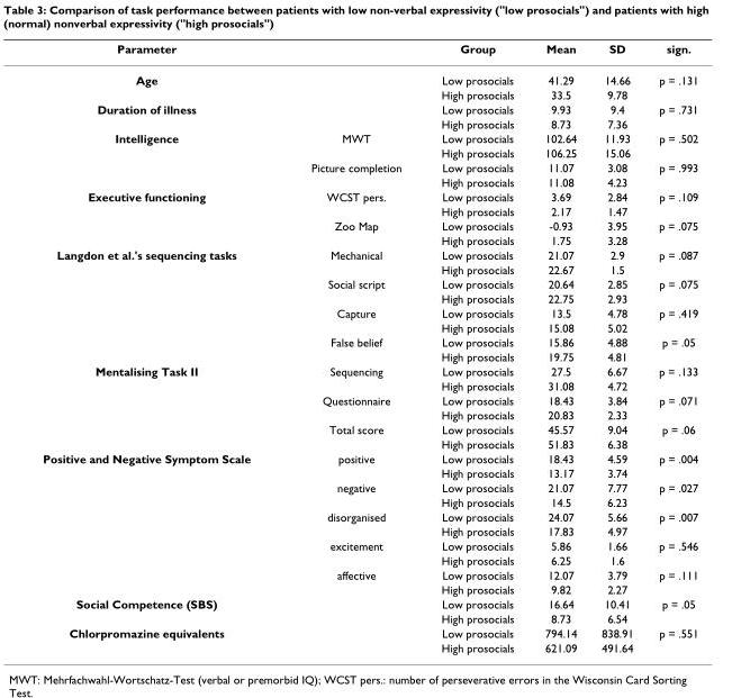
<table><thead><tr><td>Parameter</td><td></td><td>Group</td><td>Mean</td><td>SD</td><td>sign.</td></tr></thead><tbody><tr><td rowspan="2">Age</td><td></td><td>Low prosocials</td><td>41.29</td><td>14.66</td><td>p = .131</td></tr><tr><td></td><td>High prosocials</td><td>33.5</td><td>9.78</td><td></td></tr><tr><td rowspan="2">Duration of illness</td><td></td><td>Low prosocials</td><td>9.93</td><td>9.4</td><td>p = .731</td></tr><tr><td></td><td>High prosocials</td><td>8.73</td><td>7.36</td><td></td></tr><tr><td rowspan="4">Intelligence</td><td>MWT</td><td>Low prosocials</td><td>102.64</td><td>11.93</td><td>p = .502</td></tr><tr><td></td><td>High prosocials</td><td>106.25</td><td>15.06</td><td></td></tr><tr><td>Picture completion</td><td>Low prosocials</td><td>11.07</td><td>3.08</td><td>p = .993</td></tr><tr><td></td><td>High prosocials</td><td>11.08</td><td>4.23</td><td></td></tr><tr><td rowspan="4">Executive functioning</td><td>WCST pers.</td><td>Low prosocials</td><td>3.69</td><td>2.84</td><td>p = .109</td></tr><tr><td></td><td>High prosocials</td><td>2.17</td><td>1.47</td><td></td></tr><tr><td>Zoo Map</td><td>Low prosocials</td><td>-0.93</td><td>3.95</td><td>p = .075</td></tr><tr><td></td><td>High prosocials</td><td>1.75</td><td>3.28</td><td></td></tr><tr><td rowspan="8">Langdon et al.&#x27;s sequencing tasks</td><td>Mechanical</td><td>Low prosocials</td><td>21.07</td><td>2.9</td><td>p = .087</td></tr><tr><td></td><td>High prosocials</td><td>22.67</td><td>1.5</td><td></td></tr><tr><td>Social script</td><td>Low prosocials</td><td>20.64</td><td>2.85</td><td>p = .075</td></tr><tr><td></td><td>High prosocials</td><td>22.75</td><td>2.93</td><td></td></tr><tr><td>Capture</td><td>Low prosocials</td><td>13.5</td><td>4.78</td><td>p = .419</td></tr><tr><td></td><td>High prosocials</td><td>15.08</td><td>5.02</td><td></td></tr><tr><td>False belief</td><td>Low prosocials</td><td>15.86</td><td>4.88</td><td>p = .05</td></tr><tr><td></td><td>High prosocials</td><td>19.75</td><td>4.81</td><td></td></tr><tr><td rowspan="6">Mentalising Task II</td><td>Sequencing</td><td>Low prosocials</td><td>27.5</td><td>6.67</td><td>p = .133</td></tr><tr><td></td><td>High prosocials</td><td>31.08</td><td>4.72</td><td></td></tr><tr><td>Questionnaire</td><td>Low prosocials</td><td>18.43</td><td>3.84</td><td>p = .071</td></tr><tr><td></td><td>High prosocials</td><td>20.83</td><td>2.33</td><td></td></tr><tr><td>Total score</td><td>Low prosocials</td><td>45.57</td><td>9.04</td><td>p = .06</td></tr><tr><td></td><td>High prosocials</td><td>51.83</td><td>6.38</td><td></td></tr><tr><td rowspan="10">Positive and Negative Symptom Scale</td><td>positive</td><td>Low prosocials</td><td>18.43</td><td>4.59</td><td>p = .004</td></tr><tr><td></td><td>High prosocials</td><td>13.17</td><td>3.74</td><td></td></tr><tr><td>negative</td><td>Low prosocials</td><td>21.07</td><td>7.77</td><td>p = .027</td></tr><tr><td></td><td>High prosocials</td><td>14.5</td><td>6.23</td><td></td></tr><tr><td>disorganised</td><td>Low prosocials</td><td>24.07</td><td>5.66</td><td>p = .007</td></tr><tr><td></td><td>High prosocials</td><td>17.83</td><td>4.97</td><td></td></tr><tr><td>excitement</td><td>Low prosocials</td><td>5.86</td><td>1.66</td><td>p = .546</td></tr><tr><td></td><td>High prosocials</td><td>6.25</td><td>1.6</td><td></td></tr><tr><td>affective</td><td>Low prosocials</td><td>12.07</td><td>3.79</td><td>p = .111</td></tr><tr><td></td><td>High prosocials</td><td>9.82</td><td>2.27</td><td></td></tr><tr><td rowspan="2">Social Competence (SBS)</td><td></td><td>Low prosocials</td><td>16.64</td><td>10.41</td><td>p = .05</td></tr><tr><td></td><td>High prosocials</td><td>8.73</td><td>6.54</td><td></td></tr><tr><td rowspan="2">Chlorpromazine equivalents</td><td></td><td>Low prosocials</td><td>794.14</td><td>838.91</td><td>p = .551</td></tr><tr><td></td><td>High prosocials</td><td>621.09</td><td>491.64</td><td></td></tr></tbody></table>